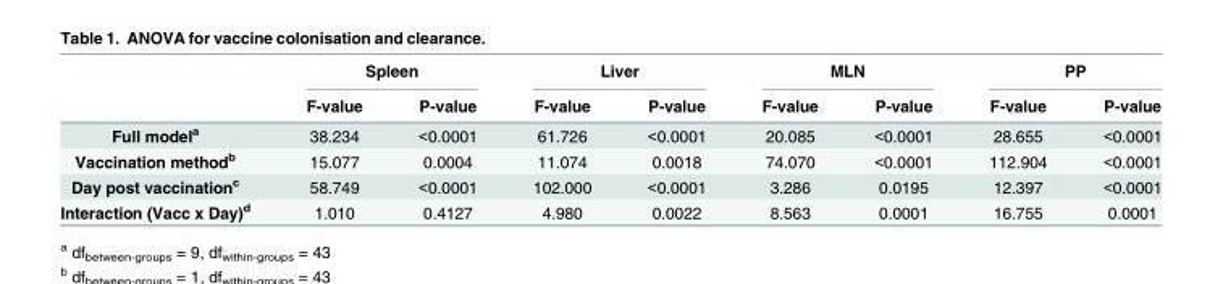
<table><thead><tr><td rowspan="2"></td><td colspan="2">Spleen</td><td colspan="2">Liver</td><td colspan="2">MLN</td><td colspan="2">PP</td></tr><tr><td>F-value</td><td>P-value</td><td>F-value</td><td>P-value</td><td>F-value</td><td>P-value</td><td>F-value</td><td>P-value</td></tr></thead><tbody><tr><td>Full model<sup>a</sup></td><td>38.234</td><td>&lt;0.0001</td><td>61.726</td><td>&lt;0.0001</td><td>20.085</td><td>&lt;0.0001</td><td>28.655</td><td>&lt;0.0001</td></tr><tr><td>Vaccination method<sup>b</sup></td><td>15.077</td><td>0.0004</td><td>11.074</td><td>0.0018</td><td>74.070</td><td>&lt;0.0001</td><td>112.904</td><td>&lt;0.0001</td></tr><tr><td>Day post vaccination<sup>c</sup></td><td>58.749</td><td>&lt;0.0001</td><td>102.000</td><td>&lt;0.0001</td><td>3.286</td><td>0.0195</td><td>12.397</td><td>&lt;0.0001</td></tr><tr><td>Interaction (Vacc x Day)<sup>d</sup></td><td>1.010</td><td>0.4127</td><td>4.980</td><td>0.0022</td><td>8.563</td><td>0.0001</td><td>16.755</td><td>0.0001</td></tr></tbody></table>